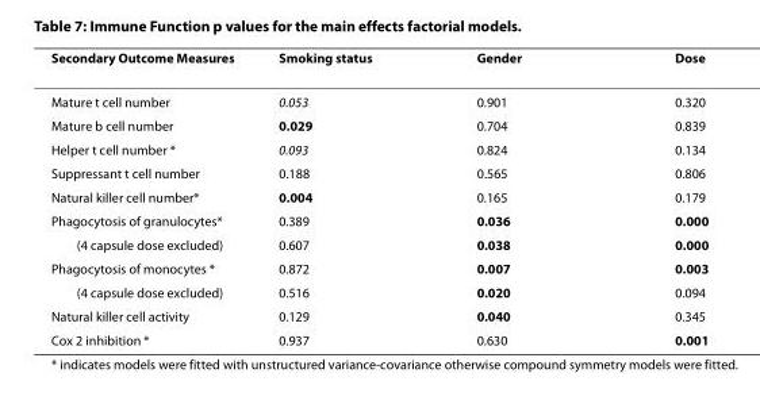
<table><thead><tr><td>Secondary Outcome Measures</td><td>Smoking status</td><td>Gender</td><td>Dose</td></tr></thead><tbody><tr><td>Mature t cell number</td><td>0.053</td><td>0.901</td><td>0.320</td></tr><tr><td>Mature b cell number</td><td>0.029</td><td>0.704</td><td>0.839</td></tr><tr><td>Helper t cell number *</td><td>0.093</td><td>0.824</td><td>0.134</td></tr><tr><td>Suppressant t cell number</td><td>0.188</td><td>0.565</td><td>0.806</td></tr><tr><td>Natural killer cell number*</td><td>0.004</td><td>0.165</td><td>0.179</td></tr><tr><td>Phagocytosis of granulocytes*</td><td>0.389</td><td>0.036</td><td>0.000</td></tr><tr><td>(4 capsule dose excluded)</td><td>0.607</td><td>0.038</td><td>0.000</td></tr><tr><td>Phagocytosis of monocytes *</td><td>0.872</td><td>0.007</td><td>0.003</td></tr><tr><td>(4 capsule dose excluded)</td><td>0.516</td><td>0.020</td><td>0.094</td></tr><tr><td>Natural killer cell activity</td><td>0.129</td><td>0.040</td><td>0.345</td></tr><tr><td>Cox 2 inhibition *</td><td>0.937</td><td>0.630</td><td>0.001</td></tr></tbody></table>